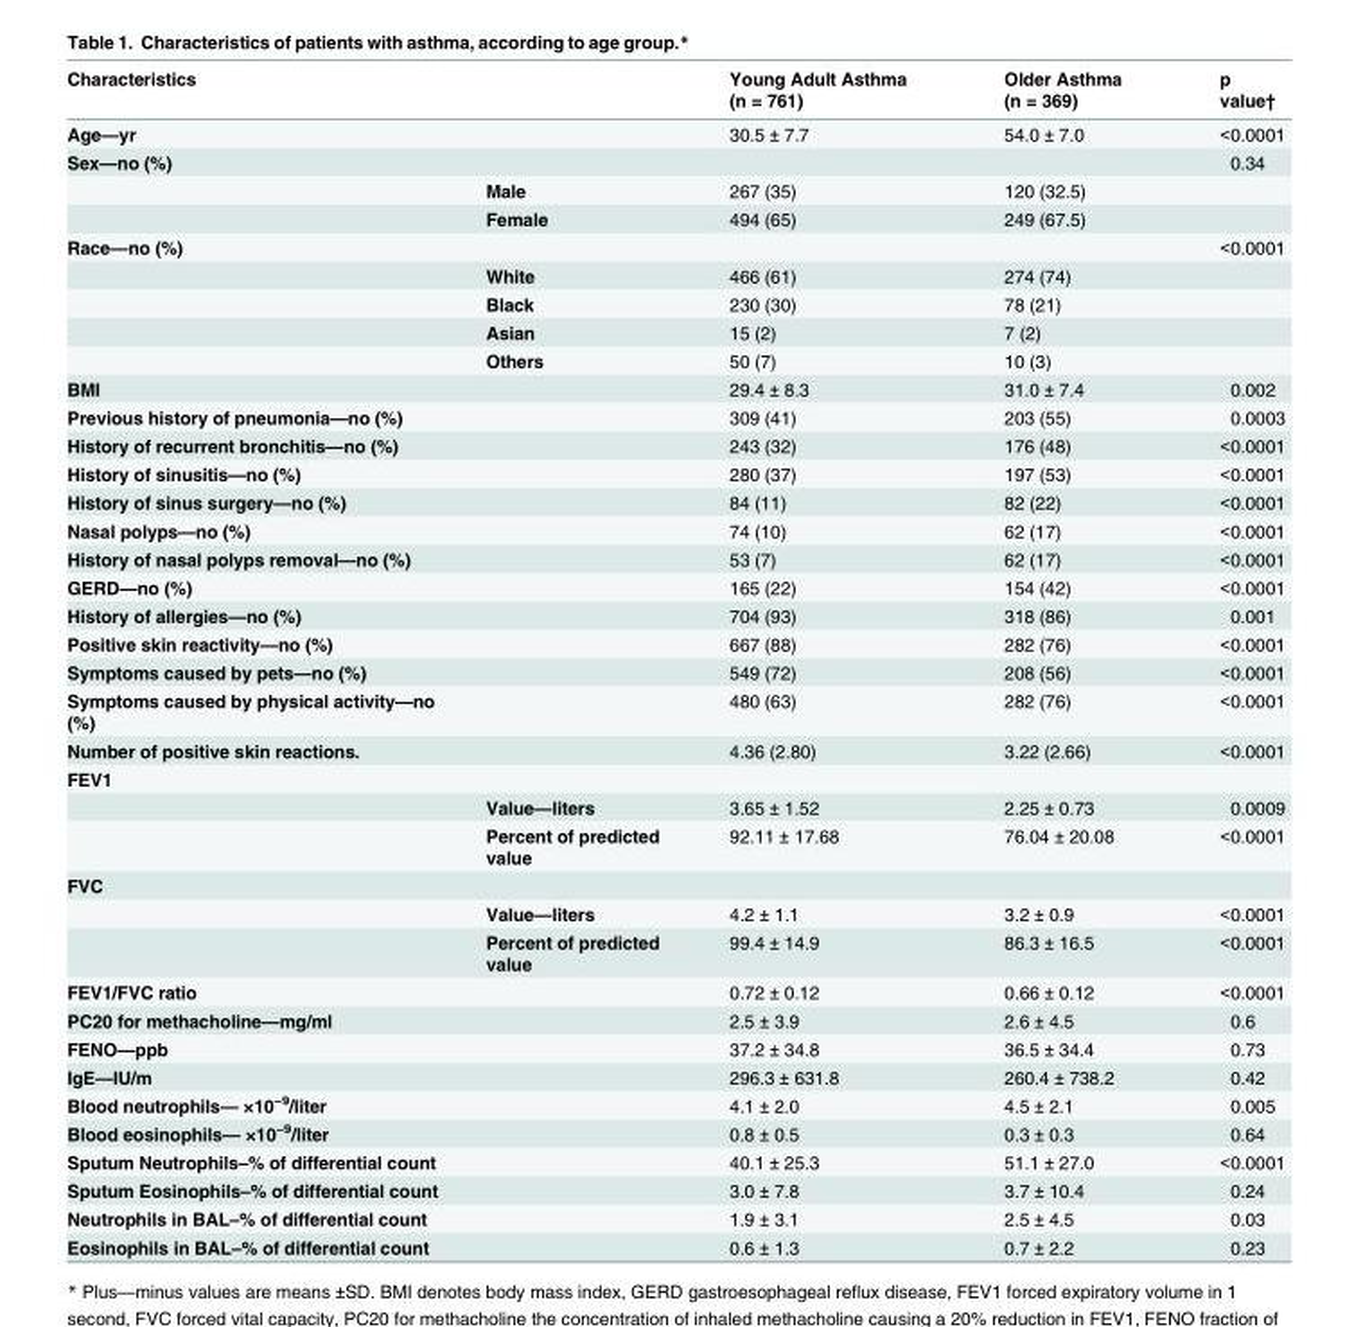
<table><thead><tr><td colspan="2">Characteristics</td><td rowspan="2">Young Adult Asthma (n = 761) 30.5 ± 7.7</td><td rowspan="2">Older Asthma (n = 369) 54.0 ± 7.0</td><td rowspan="2">p value† &lt;0.0001</td></tr><tr><td>Age—yr</td><td></td></tr></thead><tbody><tr><td rowspan="3">Sex—no (%)</td><td></td><td></td><td></td><td>0.34</td></tr><tr><td>Male</td><td>267 (35)</td><td>120 (32.5)</td><td></td></tr><tr><td>Female</td><td>494 (65)</td><td>249 (67.5)</td><td></td></tr><tr><td rowspan="5">Race—no (%)</td><td></td><td></td><td></td><td>&lt;0.0001</td></tr><tr><td>White</td><td>466 (61)</td><td>274 (74)</td><td></td></tr><tr><td>Black</td><td>230 (30)</td><td>78 (21)</td><td></td></tr><tr><td>Asian</td><td>15 (2)</td><td>7 (2)</td><td></td></tr><tr><td>Others</td><td>50 (7)</td><td>10 (3)</td><td></td></tr><tr><td>BMI</td><td></td><td>29.4 ± 8.3</td><td>31.0 ± 7.4</td><td>0.002</td></tr><tr><td>Previous history of pneumonia—no (%)</td><td></td><td>309 (41)</td><td>203 (55)</td><td>0.0003</td></tr><tr><td>History of recurrent bronchitis—no (%)</td><td></td><td>243 (32)</td><td>176 (48)</td><td>&lt;0.0001</td></tr><tr><td>History of sinusitis—no (%)</td><td></td><td>280 (37)</td><td>197 (53)</td><td>&lt;0.0001</td></tr><tr><td>History of sinus surgery—no (%)</td><td></td><td>84 (11)</td><td>82 (22)</td><td>&lt;0.0001</td></tr><tr><td>Nasal polyps—no (%)</td><td></td><td>74 (10)</td><td>62 (17)</td><td>&lt;0.0001</td></tr><tr><td>History of nasal polyps removal—no (%)</td><td></td><td>53 (7)</td><td>62 (17)</td><td>&lt;0.0001</td></tr><tr><td>GERD—no (%)</td><td></td><td>165 (22)</td><td>154 (42)</td><td>&lt;0.0001</td></tr><tr><td>History of allergies—no (%)</td><td></td><td>704 (93)</td><td>318 (86)</td><td>0.001</td></tr><tr><td>Positive skin reactivity—no (%)</td><td></td><td>667 (88)</td><td>282 (76)</td><td>&lt;0.0001</td></tr><tr><td>Symptoms caused by pets—no (%)</td><td></td><td>549 (72)</td><td>208 (56)</td><td>&lt;0.0001</td></tr><tr><td>Symptoms caused by physical activity—no (%)</td><td></td><td>480 (63)</td><td>282 (76)</td><td>&lt;0.0001</td></tr><tr><td>Number of positive skin reactions.</td><td></td><td>4.36 (2.80)</td><td>3.22 (2.66)</td><td>&lt;0.0001</td></tr><tr><td colspan="5">FEV1</td></tr><tr><td></td><td>Value—liters</td><td>3.65 ± 1.52</td><td>2.25 ± 0.73</td><td>0.0009</td></tr><tr><td></td><td>Percent of predicted value</td><td>92.11 ± 17.68</td><td>76.04 ± 20.08</td><td>&lt;0.0001</td></tr><tr><td colspan="5">FVC</td></tr><tr><td></td><td>Value—liters</td><td>4.2 ± 1.1</td><td>3.2 ± 0.9</td><td>&lt;0.0001</td></tr><tr><td></td><td>Percent of predicted value</td><td>99.4 ± 14.9</td><td>86.3 ± 16.5</td><td>&lt;0.0001</td></tr><tr><td>FEV1/FVC ratio</td><td></td><td>0.72 ± 0.12</td><td>0.66 ± 0.12</td><td>&lt;0.0001</td></tr><tr><td>PC20 for methacholine—mg/ml</td><td></td><td>2.5 ± 3.9</td><td>2.6 ± 4.5</td><td>0.6</td></tr><tr><td>FENO—ppb</td><td></td><td>37.2 ± 34.8</td><td>36.5 ± 34.4</td><td>0.73</td></tr><tr><td>IgE—IU/m</td><td></td><td>296.3 ± 631.8</td><td>260.4 ± 738.2</td><td>0.42</td></tr><tr><td>Blood neutrophils— ×10<sup>−9</sup>/liter</td><td></td><td>4.1 ± 2.0</td><td>4.5 ± 2.1</td><td>0.005</td></tr><tr><td>Blood eosinophils— ×10<sup>−9</sup>/liter</td><td></td><td>0.8 ± 0.5</td><td>0.3 ± 0.3</td><td>0.64</td></tr><tr><td>Sputum Neutrophils–% of differential count</td><td></td><td>40.1 ± 25.3</td><td>51.1 ± 27.0</td><td>&lt;0.0001</td></tr><tr><td>Sputum Eosinophils–% of differential count</td><td></td><td>3.0 ± 7.8</td><td>3.7 ± 10.4</td><td>0.24</td></tr><tr><td>Neutrophils in BAL–% of differential count</td><td></td><td>1.9 ± 3.1</td><td>2.5 ± 4.5</td><td>0.03</td></tr><tr><td>Eosinophils in BAL–% of differential count</td><td></td><td>0.6 ± 1.3</td><td>0.7 ± 2.2</td><td>0.23</td></tr></tbody></table>